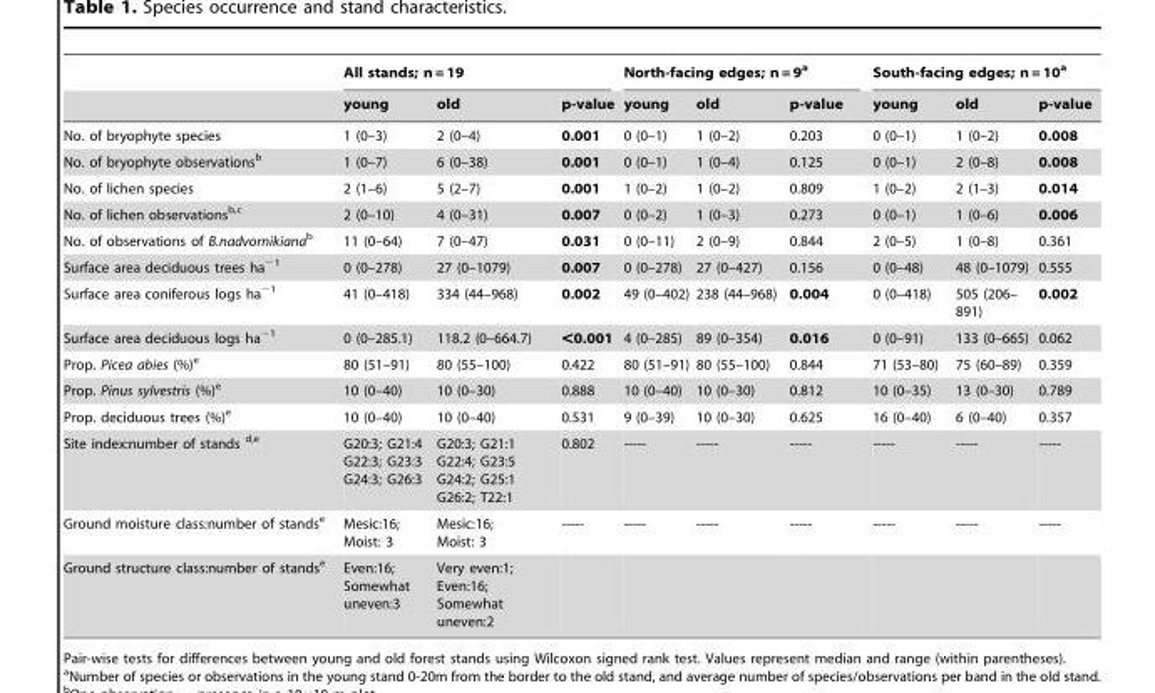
<table><thead><tr><td rowspan="2"></td><td colspan="3">All stands; n = 19</td><td colspan="3">North-facing edges; n = 9<sup>a</sup></td><td colspan="3">South-facing edges; n = 10<sup>a</sup></td></tr><tr><td>young</td><td>old</td><td>p-value</td><td>young</td><td>old</td><td>p-value</td><td>young</td><td>old</td><td>p-value</td></tr></thead><tbody><tr><td>No. of bryophyte species</td><td>1 (0–3)</td><td>2 (0–4)</td><td>0.001</td><td>0 (0–1)</td><td>1 (0–2)</td><td>0.203</td><td>0 (0–1)</td><td>1 (0–2)</td><td>0.008</td></tr><tr><td>No. of bryophyte observations<sup>b</sup></td><td>1 (0–7)</td><td>6 (0–38)</td><td>0.001</td><td>0 (0–1)</td><td>1 (0–4)</td><td>0.125</td><td>0 (0–1)</td><td>2 (0–8)</td><td>0.008</td></tr><tr><td>No. of lichen species</td><td>2 (1–6)</td><td>5 (2–7)</td><td>0.001</td><td>1 (0–2)</td><td>1 (0–2)</td><td>0.809</td><td>1 (0–2)</td><td>2 (1–3)</td><td>0.014</td></tr><tr><td>No. of lichen observationsb,c</td><td>2 (0–10)</td><td>4 (0–31)</td><td>0.007</td><td>0 (0–2)</td><td>1 (0–3)</td><td>0.273</td><td>0 (0–1)</td><td>1 (0–6)</td><td>0.006</td></tr><tr><td>No. of observations of B.nadvornikianab</td><td>11 (0–64)</td><td>7 (0–47)</td><td>0.031</td><td>0 (0–11)</td><td>2 (0–9)</td><td>0.844</td><td>2 (0–5)</td><td>1 (0–8)</td><td>0.361</td></tr><tr><td>Surface area deciduous trees ha<sup>−1</sup></td><td>0 (0–278)</td><td>27 (0–1079)</td><td>0.007</td><td>0 (0–278)</td><td>27 (0–427)</td><td>0.156</td><td>0 (0–48)</td><td>48 (0–1079)</td><td>0.555</td></tr><tr><td>Surface area coniferous logs ha<sup>−1</sup></td><td>41 (0–418)</td><td>334 (44–968)</td><td>0.002</td><td>49 (0–402)</td><td>238 (44–968)</td><td>0.004</td><td>0 (0–418)</td><td>505 (206– 891)</td><td>0.002</td></tr><tr><td>Surface area deciduous logs ha<sup>−1</sup></td><td>0 (0–285.1)</td><td>118.2 (0–664.7)</td><td>&lt;0.001</td><td>4 (0–285)</td><td>89 (0–354)</td><td>0.016</td><td>0 (0–91)</td><td>133 (0–665)</td><td>0.062</td></tr><tr><td>Prop. Picea abies (%)<sup>e</sup></td><td>80 (51–91)</td><td>80 (55–100)</td><td>0.422</td><td>80 (51–91)</td><td>80 (55–100)</td><td>0.844</td><td>71 (53–80)</td><td>75 (60–89)</td><td>0.359</td></tr><tr><td>Prop. Pinus sylvestris (%)<sup>e</sup></td><td>10 (0–40)</td><td>10 (0–30)</td><td>0.888</td><td>10 (0–40)</td><td>10 (0–30)</td><td>0.812</td><td>10 (0–35)</td><td>13 (0–30)</td><td>0.789</td></tr><tr><td>Prop. deciduous trees (%)<sup>e</sup></td><td>10 (0–40)</td><td>10 (0–40)</td><td>0.531</td><td>9 (0–39)</td><td>10 (0–30)</td><td>0.625</td><td>16 (0–40)</td><td>6 (0–40)</td><td>0.357</td></tr><tr><td>Site index:number of stands d,e</td><td>G20:3; G21:4 G22:3; G23:3 G24:3; G26:3</td><td>G20:3; G21:1 G22:4; G23:5 G24:2; G25:1 G26:2; T22:1</td><td>0.802</td><td>-----</td><td>-----</td><td>-----</td><td>-----</td><td>-----</td><td>-----</td></tr><tr><td>Ground moisture class:number of stands<sup>e</sup></td><td>Mesic:16; Moist: 3</td><td>Mesic:16; Moist: 3</td><td>-----</td><td>-----</td><td>-----</td><td>-----</td><td>-----</td><td>-----</td><td>-----</td></tr><tr><td>Ground structure class:number of stands<sup>e</sup></td><td>Even:16; Somewhat uneven:3</td><td>Very even:1; Even:16; Somewhat uneven:2</td><td></td><td></td><td></td><td></td><td></td><td></td><td></td></tr></tbody></table>